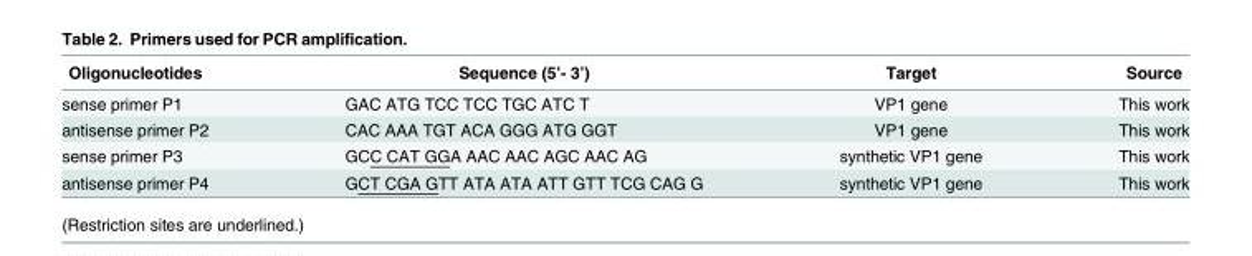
<table><thead><tr><td>Oligonucleotides</td><td>Sequence (5’- 3’)</td><td>Target</td><td>Source</td></tr></thead><tbody><tr><td>sense primer P1</td><td>GAC ATG TCC TCC TGC ATC T</td><td>VP1 gene</td><td>This work</td></tr><tr><td>antisense primer P2</td><td>CAC AAA TGT ACA GGG ATG GGT</td><td>VP1 gene</td><td>This work</td></tr><tr><td>sense primer P3</td><td>GCC CAT GGA AAC AAC AGC AAC AG</td><td>synthetic VP1 gene</td><td>This work</td></tr><tr><td>antisense primer P4</td><td>GCT CGA GTT ATA ATA ATT GTT TCG CAG G</td><td>synthetic VP1 gene</td><td>This work</td></tr></tbody></table>